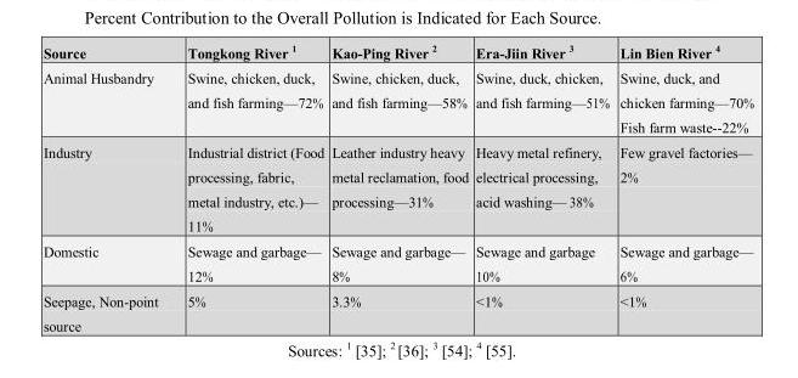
<table><thead><tr><td>Source</td><td>Tongkong River <sup>1</sup></td><td>Kao-Ping River <sup>2</sup></td><td>Era-Jiin River <sup>3</sup></td><td>Lin Bien River <sup>4</sup></td></tr></thead><tbody><tr><td>Animal Husbandry</td><td>Swine, chicken, duck, and fish farming—72%</td><td>Swine, chicken, duck, and fish farming—58%</td><td>Swine, duck, chicken, and fish farming—51%</td><td>Swine, duck, and chicken farming—70% Fish farm waste--22%</td></tr><tr><td>Industry</td><td>Industrial district (Food processing, fabric, metal industry, etc.)— 11%</td><td>Leather industry heavy metal reclamation, food processing—31%</td><td>Heavy metal refinery, electrical processing, acid washing— 38%</td><td>Few gravel factories— 2%</td></tr><tr><td>Domestic</td><td>Sewage and garbage— 12%</td><td>Sewage and garbage— 8%</td><td>Sewage and garbage 10%</td><td>Sewage and garbage— 6%</td></tr><tr><td>Seepage, Non-point source</td><td>5%</td><td>3.3%</td><td>&lt;1%</td><td>&lt;1%</td></tr></tbody></table>